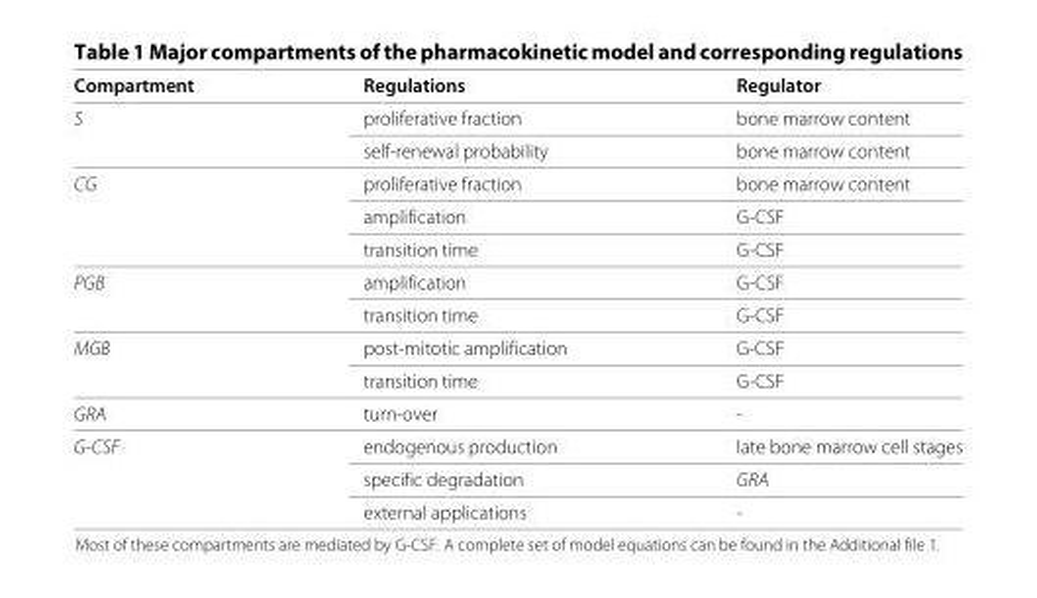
<table><thead><tr><td>Compartment</td><td>Regulations</td><td>Regulator</td></tr></thead><tbody><tr><td rowspan="2">S</td><td>proliferative fraction</td><td>bone marrow content</td></tr><tr><td>self-renewal probability</td><td>bone marrow content</td></tr><tr><td rowspan="3">CG</td><td>proliferative fraction</td><td>bone marrow content</td></tr><tr><td>amplification</td><td>G-CSF</td></tr><tr><td>transition time</td><td>G-CSF</td></tr><tr><td rowspan="2">PGB</td><td>amplification</td><td>G-CSF</td></tr><tr><td>transition time</td><td>G-CSF</td></tr><tr><td rowspan="2">MGB</td><td>post-mitotic amplification</td><td>G-CSF</td></tr><tr><td>transition time</td><td>G-CSF</td></tr><tr><td>GRA</td><td>turn-over</td><td>-</td></tr><tr><td rowspan="3">G-CSF</td><td>endogenous production</td><td>late bone marrow cell stages</td></tr><tr><td>specific degradation</td><td>GRA</td></tr><tr><td>external applications</td><td>-</td></tr></tbody></table>